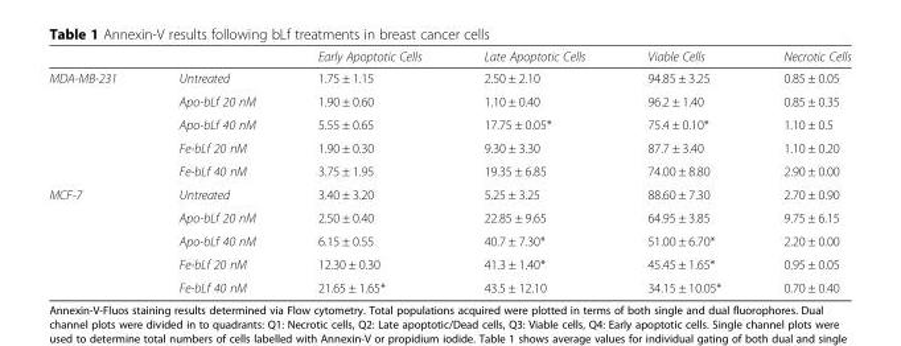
<table><thead><tr><td></td><td></td><td>Early Apoptotic Cells</td><td>Late Apoptotic Cells</td><td>Viable Cells</td><td>Necrotic Cells</td></tr></thead><tbody><tr><td rowspan="5">MDA-MB-231</td><td>Untreated</td><td>1.75 ± 1.15</td><td>2.50 ± 2.10</td><td>94.85 ± 3.25</td><td>0.85 ± 0.05</td></tr><tr><td>Apo-bLf 20 nM</td><td>1.90 ± 0.60</td><td>1.10 ± 0.40</td><td>96.2 ± 1.40</td><td>0.85 ± 0.35</td></tr><tr><td>Apo-bLf 40 nM</td><td>5.55 ± 0.65</td><td>17.75 ± 0.05*</td><td>75.4 ± 0.10*</td><td>1.10 ± 0.5</td></tr><tr><td>Fe-bLf 20 nM</td><td>1.90 ± 0.30</td><td>9.30 ± 3.30</td><td>87.7 ± 3.40</td><td>1.10 ± 0.20</td></tr><tr><td>Fe-bLf 40 nM</td><td>3.75 ± 1.95</td><td>19.35 ± 6.85</td><td>74.00 ± 8.80</td><td>2.90 ± 0.00</td></tr><tr><td rowspan="5">MCF-7</td><td>Untreated</td><td>3.40 ± 3.20</td><td>5.25 ± 3.25</td><td>88.60 ± 7.30</td><td>2.70 ± 0.90</td></tr><tr><td>Apo-bLf 20 nM</td><td>2.50 ± 0.40</td><td>22.85 ± 9.65</td><td>64.95 ± 3.85</td><td>9.75 ± 6.15</td></tr><tr><td>Apo-bLf 40 nM</td><td>6.15 ± 0.55</td><td>40.7 ± 7.30*</td><td>51.00 ± 6.70*</td><td>2.20 ± 0.00</td></tr><tr><td>Fe-bLf 20 nM</td><td>12.30 ± 0.30</td><td>41.3 ± 1.40*</td><td>45.45 ± 1.65*</td><td>0.95 ± 0.05</td></tr><tr><td>Fe-bLf 40 nM</td><td>21.65 ± 1.65*</td><td>43.5 ± 12.10</td><td>34.15 ± 10.05*</td><td>0.70 ± 0.40</td></tr></tbody></table>